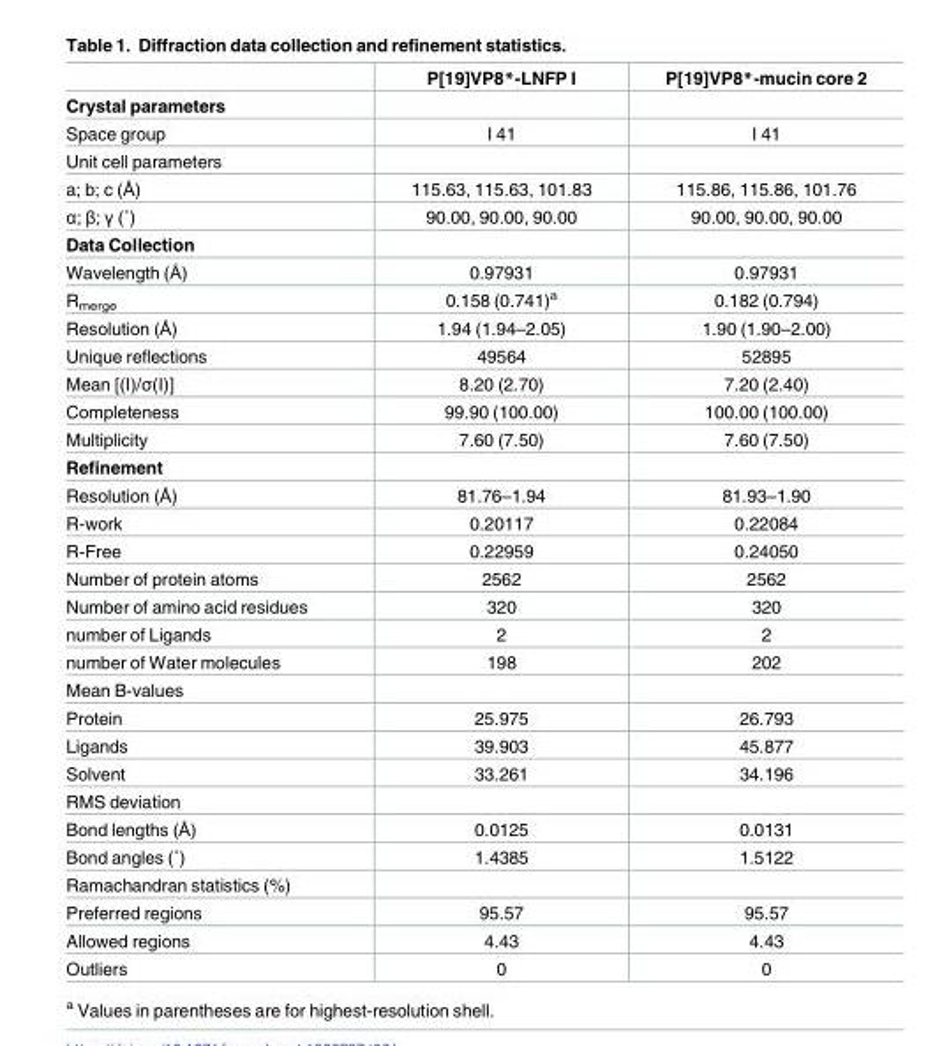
<table><thead><tr><td></td><td>P[19]VP8*-LNFP I</td><td>P[19]VP8*-mucin core 2</td></tr></thead><tbody><tr><td colspan="3">Crystal parameters</td></tr><tr><td>Space group</td><td>I 41</td><td>I 41</td></tr><tr><td colspan="3">Unit cell parameters</td></tr><tr><td>a; b; c (Å)</td><td>115.63, 115.63, 101.83</td><td>115.86, 115.86, 101.76</td></tr><tr><td>α; β; γ (˚)</td><td>90.00, 90.00, 90.00</td><td>90.00, 90.00, 90.00</td></tr><tr><td colspan="3">Data Collection</td></tr><tr><td>Wavelength (Å)</td><td>0.97931</td><td>0.97931</td></tr><tr><td>R<sub>merge</sub></td><td>0.158 (0.741)<sup>a</sup></td><td>0.182 (0.794)</td></tr><tr><td>Resolution (Å)</td><td>1.94 (1.94–2.05)</td><td>1.90 (1.90–2.00)</td></tr><tr><td>Unique reflections</td><td>49564</td><td>52895</td></tr><tr><td>Mean [(I)/σ(I)]</td><td>8.20 (2.70)</td><td>7.20 (2.40)</td></tr><tr><td>Completeness</td><td>99.90 (100.00)</td><td>100.00 (100.00)</td></tr><tr><td>Multiplicity</td><td>7.60 (7.50)</td><td>7.60 (7.50)</td></tr><tr><td colspan="3">Refinement</td></tr><tr><td>Resolution (Å)</td><td>81.76–1.94</td><td>81.93–1.90</td></tr><tr><td>R-work</td><td>0.20117</td><td>0.22084</td></tr><tr><td>R-Free</td><td>0.22959</td><td>0.24050</td></tr><tr><td>Number of protein atoms</td><td>2562</td><td>2562</td></tr><tr><td>Number of amino acid residues</td><td>320</td><td>320</td></tr><tr><td>number of Ligands</td><td>2</td><td>2</td></tr><tr><td>number of Water molecules</td><td>198</td><td>202</td></tr><tr><td colspan="3">Mean B-values</td></tr><tr><td>Protein</td><td>25.975</td><td>26.793</td></tr><tr><td>Ligands</td><td>39.903</td><td>45.877</td></tr><tr><td>Solvent</td><td>33.261</td><td>34.196</td></tr><tr><td colspan="3">RMS deviation</td></tr><tr><td>Bond lengths (Å)</td><td>0.0125</td><td>0.0131</td></tr><tr><td>Bond angles (˚)</td><td>1.4385</td><td>1.5122</td></tr><tr><td colspan="3">Ramachandran statistics (%)</td></tr><tr><td>Preferred regions</td><td>95.57</td><td>95.57</td></tr><tr><td>Allowed regions</td><td>4.43</td><td>4.43</td></tr><tr><td>Outliers</td><td>0</td><td>0</td></tr></tbody></table>